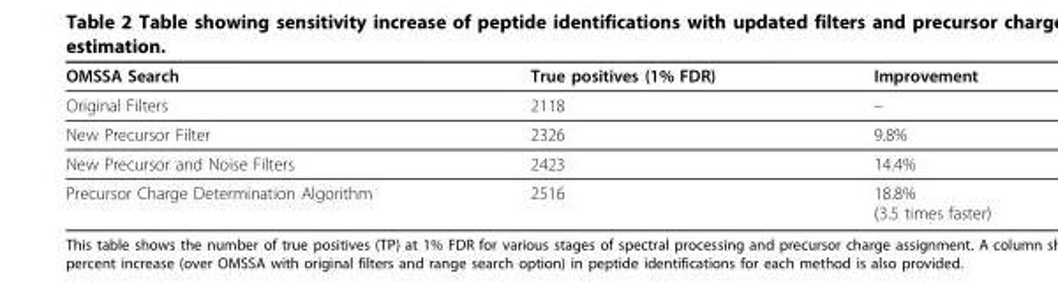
<table><thead><tr><td>OMSSA Search</td><td>True positives (1% FDR)</td><td>Improvement</td></tr></thead><tbody><tr><td>Original Filters</td><td>2118</td><td>–</td></tr><tr><td>New Precursor Filter</td><td>2326</td><td>9.8%</td></tr><tr><td>New Precursor and Noise Filters</td><td>2423</td><td>14.4%</td></tr><tr><td>Precursor Charge Determination Algorithm</td><td>2516</td><td>18.8% (3.5 times faster)</td></tr></tbody></table>